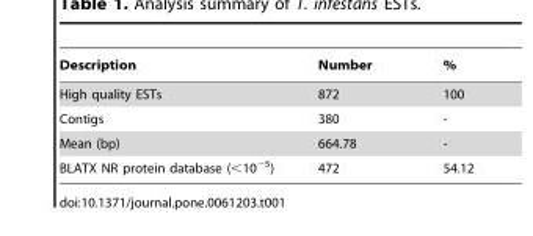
<table><thead><tr><td>Description</td><td>Number</td><td>%</td></tr></thead><tbody><tr><td>High quality ESTs</td><td>872</td><td>100</td></tr><tr><td>Contigs</td><td>380</td><td>-</td></tr><tr><td>Mean (bp)</td><td>664.78</td><td>-</td></tr><tr><td>BLATX NR protein database (&lt;10<sup>−5</sup>)</td><td>472</td><td>54.12</td></tr></tbody></table>